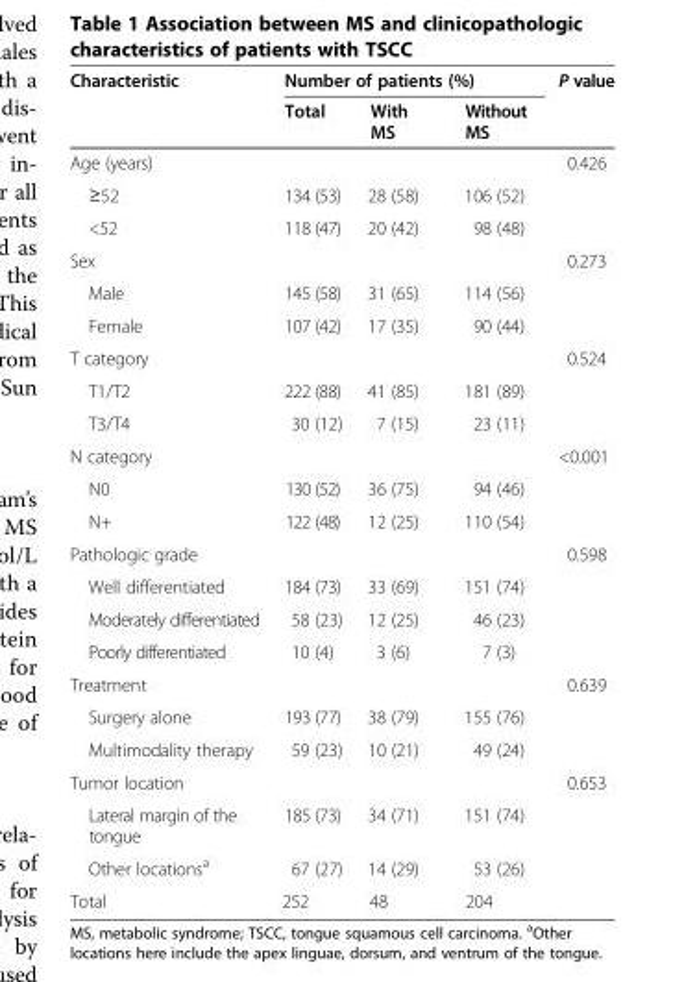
<table><thead><tr><td rowspan="2">Characteristic</td><td colspan="3">Number of patients (%)</td><td rowspan="2">P value</td></tr><tr><td>Total</td><td>With MS</td><td>Without MS</td></tr></thead><tbody><tr><td>Age (years)</td><td></td><td></td><td></td><td>0.426</td></tr><tr><td>≥52</td><td>134 (53)</td><td>28 (58)</td><td>106 (52)</td><td></td></tr><tr><td>&lt;52</td><td>118 (47)</td><td>20 (42)</td><td>98 (48)</td><td></td></tr><tr><td>Sex</td><td></td><td></td><td></td><td>0.273</td></tr><tr><td>Male</td><td>145 (58)</td><td>31 (65)</td><td>114 (56)</td><td></td></tr><tr><td>Female</td><td>107 (42)</td><td>17 (35)</td><td>90 (44)</td><td></td></tr><tr><td>T category</td><td></td><td></td><td></td><td>0.524</td></tr><tr><td>T1/T2</td><td>222 (88)</td><td>41 (85)</td><td>181 (89)</td><td></td></tr><tr><td>T3/T4</td><td>30 (12)</td><td>7 (15)</td><td>23 (11)</td><td></td></tr><tr><td>N category</td><td></td><td></td><td></td><td>&lt;0.001</td></tr><tr><td>N0</td><td>130 (52)</td><td>36 (75)</td><td>94 (46)</td><td></td></tr><tr><td>N+</td><td>122 (48)</td><td>12 (25)</td><td>110 (54)</td><td></td></tr><tr><td>Pathologic grade</td><td></td><td></td><td></td><td>0.598</td></tr><tr><td>Well differentiated</td><td>184 (73)</td><td>33 (69)</td><td>151 (74)</td><td></td></tr><tr><td>Moderately differentiated</td><td>58 (23)</td><td>12 (25)</td><td>46 (23)</td><td></td></tr><tr><td>Poorly differentiated</td><td>10 (4)</td><td>3 (6)</td><td>7 (3)</td><td></td></tr><tr><td>Treatment</td><td></td><td></td><td></td><td>0.639</td></tr><tr><td>Surgery alone</td><td>193 (77)</td><td>38 (79)</td><td>155 (76)</td><td></td></tr><tr><td>Multimodality therapy</td><td>59 (23)</td><td>10 (21)</td><td>49 (24)</td><td></td></tr><tr><td>Tumor location</td><td></td><td></td><td></td><td>0.653</td></tr><tr><td>Lateral margin of the tongue</td><td>185 (73)</td><td>34 (71)</td><td>151 (74)</td><td></td></tr><tr><td>Other locations<sup>a</sup></td><td>67 (27)</td><td>14 (29)</td><td>53 (26)</td><td></td></tr><tr><td>Total</td><td>252</td><td>48</td><td>204</td><td></td></tr></tbody></table>